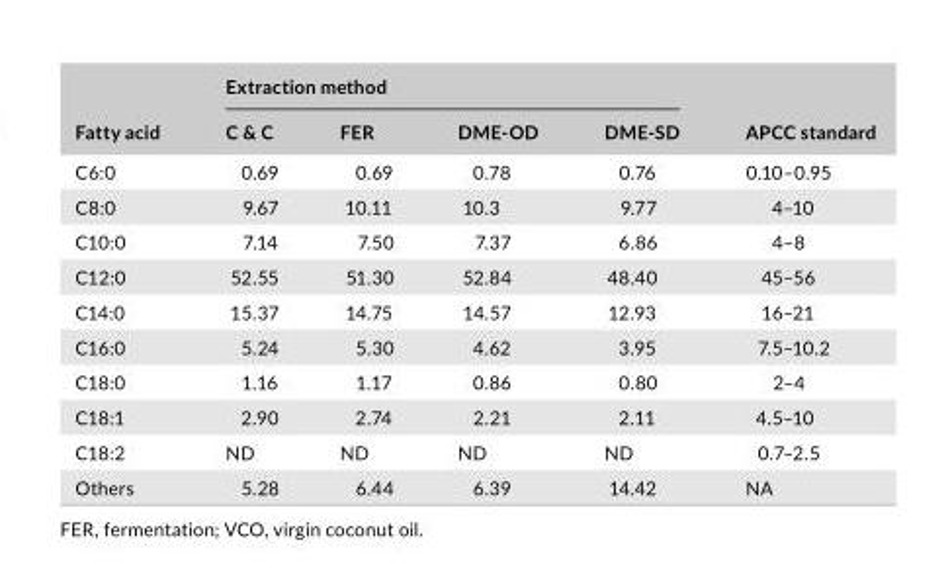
<table><thead><tr><td rowspan="2">Fatty acid</td><td colspan="4">Extraction method</td><td rowspan="2">APCC standard</td></tr><tr><td>C &amp; C</td><td>FER</td><td>DME- OD</td><td>DME- SD</td></tr></thead><tbody><tr><td>C6:0</td><td>0.69</td><td>0.69</td><td>0.78</td><td>0.76</td><td>0.10–0.95</td></tr><tr><td>C8:0</td><td>9.67</td><td>10.11</td><td>10.3</td><td>9.77</td><td>4–10</td></tr><tr><td>C10:0</td><td>7.14</td><td>7.50</td><td>7.37</td><td>6.86</td><td>4–8</td></tr><tr><td>C12:0</td><td>52.55</td><td>51.30</td><td>52.84</td><td>48.40</td><td>45–56</td></tr><tr><td>C14:0</td><td>15.37</td><td>14.75</td><td>14.57</td><td>12.93</td><td>16–21</td></tr><tr><td>C16:0</td><td>5.24</td><td>5.30</td><td>4.62</td><td>3.95</td><td>7.5–10.2</td></tr><tr><td>C18:0</td><td>1.16</td><td>1.17</td><td>0.86</td><td>0.80</td><td>2–4</td></tr><tr><td>C18:1</td><td>2.90</td><td>2.74</td><td>2.21</td><td>2.11</td><td>4.5–10</td></tr><tr><td>C18:2</td><td>ND</td><td>ND</td><td>ND</td><td>ND</td><td>0.7–2.5</td></tr><tr><td>Others</td><td>5.28</td><td>6.44</td><td>6.39</td><td>14.42</td><td>NA</td></tr></tbody></table>